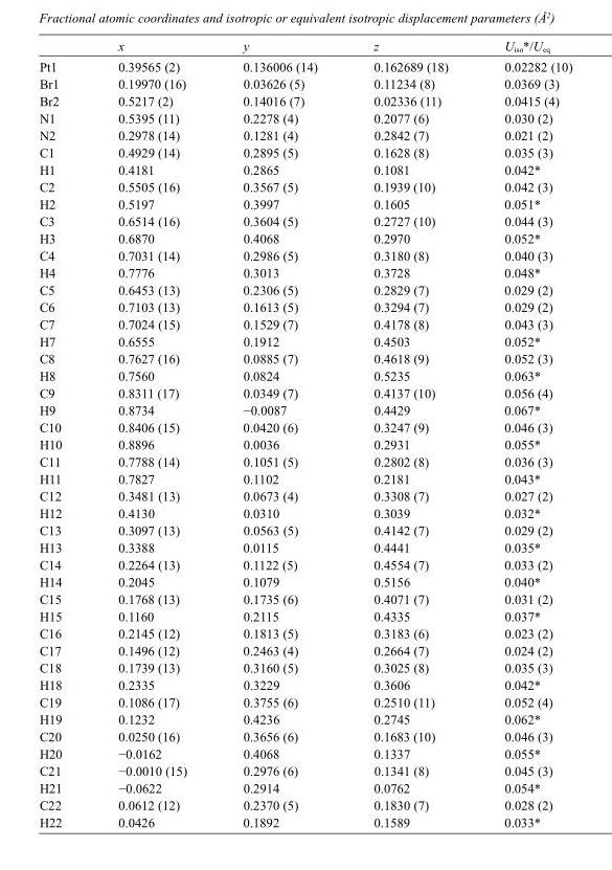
<table><thead><tr><td></td><td>x</td><td>y</td><td>z</td><td>U<sub>iso</sub>*/U<sub>eq</sub></td></tr></thead><tbody><tr><td>Pt1</td><td>0.39565 (2)</td><td>0.136006 (14)</td><td>0.162689 (18)</td><td>0.02282 (10)</td></tr><tr><td>Br1</td><td>0.19970 (16)</td><td>0.03626 (5)</td><td>0.11234 (8)</td><td>0.0369 (3)</td></tr><tr><td>Br2</td><td>0.5217 (2)</td><td>0.14016 (7)</td><td>0.02336 (11)</td><td>0.0415 (4)</td></tr><tr><td>N1</td><td>0.5395 (11)</td><td>0.2278 (4)</td><td>0.2077 (6)</td><td>0.030 (2)</td></tr><tr><td>N2</td><td>0.2978 (14)</td><td>0.1281 (4)</td><td>0.2842 (7)</td><td>0.021 (2)</td></tr><tr><td>C1</td><td>0.4929 (14)</td><td>0.2895 (5)</td><td>0.1628 (8)</td><td>0.035 (3)</td></tr><tr><td>H1</td><td>0.4181</td><td>0.2865</td><td>0.1081</td><td>0.042*</td></tr><tr><td>C2</td><td>0.5505 (16)</td><td>0.3567 (5)</td><td>0.1939 (10)</td><td>0.042 (3)</td></tr><tr><td>H2</td><td>0.5197</td><td>0.3997</td><td>0.1605</td><td>0.051*</td></tr><tr><td>C3</td><td>0.6514 (16)</td><td>0.3604 (5)</td><td>0.2727 (10)</td><td>0.044 (3)</td></tr><tr><td>H3</td><td>0.6870</td><td>0.4068</td><td>0.2970</td><td>0.052*</td></tr><tr><td>C4</td><td>0.7031 (14)</td><td>0.2986 (5)</td><td>0.3180 (8)</td><td>0.040 (3)</td></tr><tr><td>H4</td><td>0.7776</td><td>0.3013</td><td>0.3728</td><td>0.048*</td></tr><tr><td>C5</td><td>0.6453 (13)</td><td>0.2306 (5)</td><td>0.2829 (7)</td><td>0.029 (2)</td></tr><tr><td>C6</td><td>0.7103 (13)</td><td>0.1613 (5)</td><td>0.3294 (7)</td><td>0.029 (2)</td></tr><tr><td>C7</td><td>0.7024 (15)</td><td>0.1529 (7)</td><td>0.4178 (8)</td><td>0.043 (3)</td></tr><tr><td>H7</td><td>0.6555</td><td>0.1912</td><td>0.4503</td><td>0.052*</td></tr><tr><td>C8</td><td>0.7627 (16)</td><td>0.0885 (7)</td><td>0.4618 (9)</td><td>0.052 (3)</td></tr><tr><td>H8</td><td>0.7560</td><td>0.0824</td><td>0.5235</td><td>0.063*</td></tr><tr><td>C9</td><td>0.8311 (17)</td><td>0.0349 (7)</td><td>0.4137 (10)</td><td>0.056 (4)</td></tr><tr><td>H9</td><td>0.8734</td><td>−0.0087</td><td>0.4429</td><td>0.067*</td></tr><tr><td>C10</td><td>0.8406 (15)</td><td>0.0420 (6)</td><td>0.3247 (9)</td><td>0.046 (3)</td></tr><tr><td>H10</td><td>0.8896</td><td>0.0036</td><td>0.2931</td><td>0.055*</td></tr><tr><td>C11</td><td>0.7788 (14)</td><td>0.1051 (5)</td><td>0.2802 (8)</td><td>0.036 (3)</td></tr><tr><td>H11</td><td>0.7827</td><td>0.1102</td><td>0.2181</td><td>0.043*</td></tr><tr><td>C12</td><td>0.3481 (13)</td><td>0.0673 (4)</td><td>0.3308 (7)</td><td>0.027 (2)</td></tr><tr><td>H12</td><td>0.4130</td><td>0.0310</td><td>0.3039</td><td>0.032*</td></tr><tr><td>C13</td><td>0.3097 (13)</td><td>0.0563 (5)</td><td>0.4142 (7)</td><td>0.029 (2)</td></tr><tr><td>H13</td><td>0.3388</td><td>0.0115</td><td>0.4441</td><td>0.035*</td></tr><tr><td>C14</td><td>0.2264 (13)</td><td>0.1122 (5)</td><td>0.4554 (7)</td><td>0.033 (2)</td></tr><tr><td>H14</td><td>0.2045</td><td>0.1079</td><td>0.5156</td><td>0.040*</td></tr><tr><td>C15</td><td>0.1768 (13)</td><td>0.1735 (6)</td><td>0.4071 (7)</td><td>0.031 (2)</td></tr><tr><td>H15</td><td>0.1160</td><td>0.2115</td><td>0.4335</td><td>0.037*</td></tr><tr><td>C16</td><td>0.2145 (12)</td><td>0.1813 (5)</td><td>0.3183 (6)</td><td>0.023 (2)</td></tr><tr><td>C17</td><td>0.1496 (12)</td><td>0.2463 (4)</td><td>0.2664 (7)</td><td>0.024 (2)</td></tr><tr><td>C18</td><td>0.1739 (13)</td><td>0.3160 (5)</td><td>0.3025 (8)</td><td>0.035 (3)</td></tr><tr><td>H18</td><td>0.2335</td><td>0.3229</td><td>0.3606</td><td>0.042*</td></tr><tr><td>C19</td><td>0.1086 (17)</td><td>0.3755 (6)</td><td>0.2510 (11)</td><td>0.052 (4)</td></tr><tr><td>H19</td><td>0.1232</td><td>0.4236</td><td>0.2745</td><td>0.062*</td></tr><tr><td>C20</td><td>0.0250 (16)</td><td>0.3656 (6)</td><td>0.1683 (10)</td><td>0.046 (3)</td></tr><tr><td>H20</td><td>−0.0162</td><td>0.4068</td><td>0.1337</td><td>0.055*</td></tr><tr><td>C21</td><td>−0.0010 (15)</td><td>0.2976 (6)</td><td>0.1341 (8)</td><td>0.045 (3)</td></tr><tr><td>H21</td><td>−0.0622</td><td>0.2914</td><td>0.0762</td><td>0.054*</td></tr><tr><td>C22</td><td>0.0612 (12)</td><td>0.2370 (5)</td><td>0.1830 (7)</td><td>0.028 (2)</td></tr><tr><td>H22</td><td>0.0426</td><td>0.1892</td><td>0.1589</td><td>0.033*</td></tr></tbody></table>